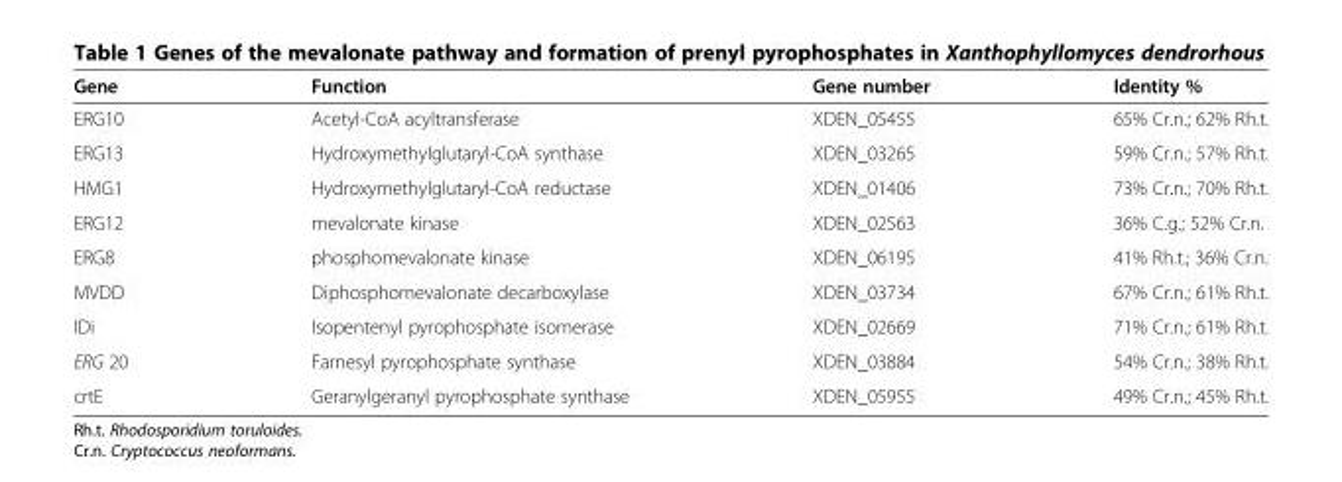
<table><thead><tr><td>Gene</td><td>Function</td><td>Gene number</td><td>Identity %</td></tr></thead><tbody><tr><td>ERG10</td><td>Acetyl-CoA acyltransferase</td><td>XDEN_05455</td><td>65% Cr.n.; 62% Rh.t.</td></tr><tr><td>ERG13</td><td>Hydroxymethylglutaryl-CoA synthase</td><td>XDEN_03265</td><td>59% Cr.n.; 57% Rh.t.</td></tr><tr><td>HMG1</td><td>Hydroxymethylglutaryl-CoA reductase</td><td>XDEN_01406</td><td>73% Cr.n.; 70% Rh.t.</td></tr><tr><td>ERG12</td><td>mevalonate kinase</td><td>XDEN_02563</td><td>36% C.g.; 52% Cr.n.</td></tr><tr><td>ERG8</td><td>phosphomevalonate kinase</td><td>XDEN_06195</td><td>41% Rh.t.; 36% Cr.n.</td></tr><tr><td>MVDD</td><td>Diphosphomevalonate decarboxylase</td><td>XDEN_03734</td><td>67% Cr.n.; 61% Rh.t.</td></tr><tr><td>IDi</td><td>Isopentenyl pyrophosphate isomerase</td><td>XDEN_02669</td><td>71% Cr.n.; 61% Rh.t.</td></tr><tr><td>ERG 20</td><td>Farnesyl pyrophosphate synthase</td><td>XDEN_03884</td><td>54% Cr.n.; 38% Rh.t.</td></tr><tr><td>crtE</td><td>Geranylgeranyl pyrophosphate synthase</td><td>XDEN_05955</td><td>49% Cr.n.; 45% Rh.t.</td></tr></tbody></table>